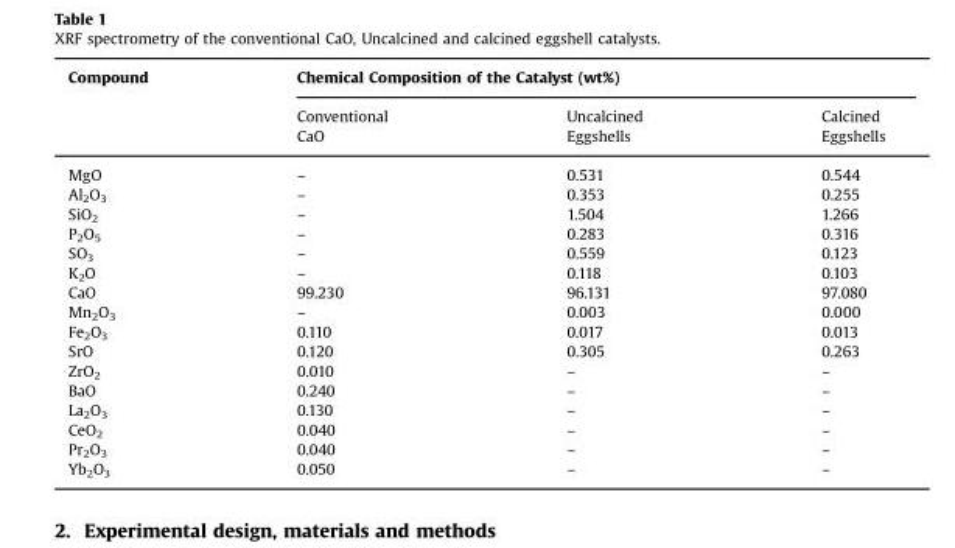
<table><thead><tr><td rowspan="3">Compound</td><td colspan="3">Chemical Composition of the Catalyst (wt%)</td></tr><tr><td rowspan="2">Conventional CaO</td><td rowspan="2">Uncalcined Eggshells</td><td rowspan="2">Calcined Eggshells</td></tr><tr></tr></thead><tbody><tr><td>MgO</td><td>–</td><td>0.531</td><td>0.544</td></tr><tr><td>Al<sub>2</sub>O<sub>3</sub></td><td>–</td><td>0.353</td><td>0.255</td></tr><tr><td>SiO<sub>2</sub></td><td>–</td><td>1.504</td><td>1.266</td></tr><tr><td>P<sub>2</sub>O<sub>5</sub></td><td>–</td><td>0.283</td><td>0.316</td></tr><tr><td>SO<sub>3</sub></td><td>–</td><td>0.559</td><td>0.123</td></tr><tr><td>K<sub>2</sub>O</td><td>–</td><td>0.118</td><td>0.103</td></tr><tr><td>CaO</td><td>99.230</td><td>96.131</td><td>97.080</td></tr><tr><td>Mn<sub>2</sub>O<sub>3</sub></td><td>–</td><td>0.003</td><td>0.000</td></tr><tr><td>Fe<sub>2</sub>O<sub>3</sub></td><td>0.110</td><td>0.017</td><td>0.013</td></tr><tr><td>SrO</td><td>0.120</td><td>0.305</td><td>0.263</td></tr><tr><td>ZrO<sub>2</sub></td><td>0.010</td><td>–</td><td>–</td></tr><tr><td>BaO</td><td>0.240</td><td>–</td><td>–</td></tr><tr><td>La<sub>2</sub>O<sub>3</sub></td><td>0.130</td><td>–</td><td>–</td></tr><tr><td>CeO<sub>2</sub></td><td>0.040</td><td>–</td><td>–</td></tr><tr><td>Pr<sub>2</sub>O<sub>3</sub></td><td>0.040</td><td>–</td><td>–</td></tr><tr><td>Yb<sub>2</sub>O<sub>3</sub></td><td>0.050</td><td>–</td><td>–</td></tr></tbody></table>